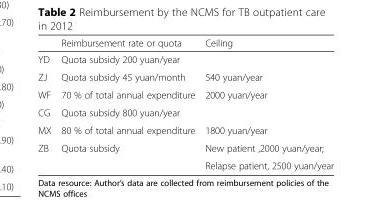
<table><thead><tr><td></td><td>Reimbursement rate or quota</td><td>Ceiling</td></tr></thead><tbody><tr><td>YD</td><td>Quota subsidy 200 yuan/year</td><td></td></tr><tr><td>ZJ</td><td>Quota subsidy 45 yuan/month</td><td>540 yuan/year</td></tr><tr><td>WF</td><td>70 % of total annual expenditure</td><td>2000 yuan/year</td></tr><tr><td>CG</td><td>Quota subsidy 800 yuan/year</td><td></td></tr><tr><td>MX</td><td>80 % of total annual expenditure</td><td>1800 yuan/year</td></tr><tr><td rowspan="2">ZB</td><td rowspan="2">Quota subsidy</td><td>New patient ,2000 yuan/year;</td></tr><tr><td>Relapse patient, 2500 yuan/year</td></tr></tbody></table>